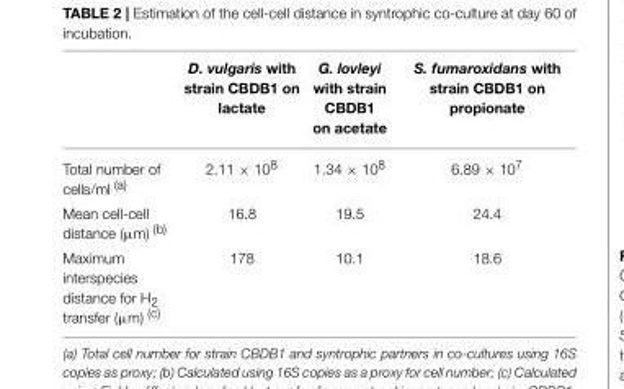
<table><thead><tr><td></td><td>D. vulgaris with strain CBDB1 on lactate</td><td>G. lovleyi with strain CBDB1 on acetate</td><td>S. fumaroxidans with strain CBDB1 on propionate</td></tr></thead><tbody><tr><td>Total number of cells/ml <sup>(a)</sup></td><td>2.11 × 10<sup>8</sup></td><td>1.34 × 10<sup>8</sup></td><td>6.89 × 10<sup>7</sup></td></tr><tr><td>Mean cell-cell distance (µm) <sup>(b)</sup></td><td>16.8</td><td>19.5</td><td>24.4</td></tr><tr><td>Maximum interspecies distance for H<sub>2</sub> transfer (µm) <sup>(c)</sup></td><td>178</td><td>10.1</td><td>18.6</td></tr></tbody></table>